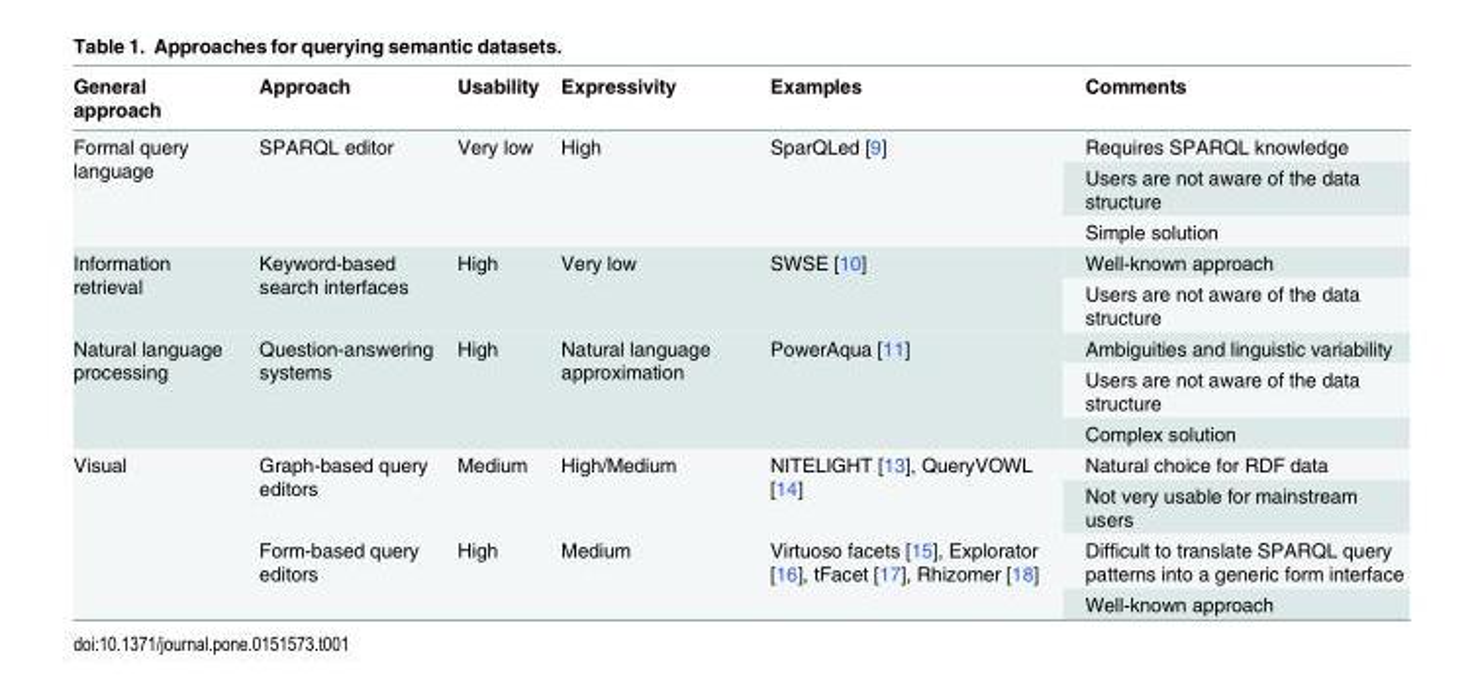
<table><thead><tr><td>General approach</td><td>Approach</td><td>Usability</td><td>Expressivity</td><td>Examples</td><td>Comments</td></tr></thead><tbody><tr><td rowspan="3">Formal query language</td><td rowspan="3">SPARQL editor</td><td rowspan="3">Very low</td><td rowspan="3">High</td><td rowspan="3">SparQLed [9]</td><td>Requires SPARQL knowledge</td></tr><tr><td>Users are not aware of the data structure</td></tr><tr><td>Simple solution</td></tr><tr><td rowspan="2">Information retrieval</td><td rowspan="2">Keyword-based search interfaces</td><td rowspan="2">High</td><td rowspan="2">Very low</td><td rowspan="2">SWSE [10]</td><td>Well-known approach</td></tr><tr><td>Users are not aware of the data structure</td></tr><tr><td rowspan="3">Natural language processing</td><td rowspan="3">Question-answering systems</td><td rowspan="3">High</td><td rowspan="3">Natural language approximation</td><td rowspan="3">PowerAqua [11]</td><td>Ambiguities and linguistic variability</td></tr><tr><td>Users are not aware of the data structure</td></tr><tr><td>Complex solution</td></tr><tr><td rowspan="4">Visual</td><td rowspan="2">Graph-based query editors</td><td rowspan="2">Medium</td><td rowspan="2">High/Medium</td><td rowspan="2">NITELIGHT [13], QueryVOWL [14]</td><td>Natural choice for RDF data</td></tr><tr><td>Not very usable for mainstream users</td></tr><tr><td rowspan="2">Form-based query editors</td><td rowspan="2">High</td><td rowspan="2">Medium</td><td rowspan="2">Virtuoso facets [15], Explorator [16], tFacet [17], Rhizomer [18]</td><td>Difficult to translate SPARQL query patterns into a generic form interface</td></tr><tr><td>Well-known approach</td></tr></tbody></table>